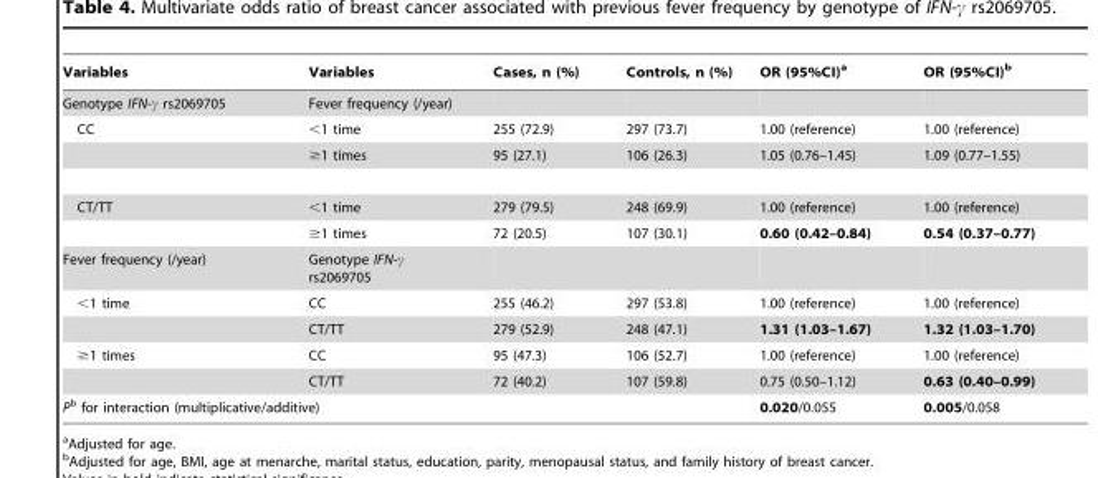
<table><thead><tr><td>Variables</td><td>Variables</td><td>Cases, n (%)</td><td>Controls, n (%)</td><td>OR (95%CI)<sup>a</sup></td><td>OR (95%CI)<sup>b</sup></td></tr></thead><tbody><tr><td>Genotype IFN-γ rs2069705</td><td>Fever frequency (/year)</td><td></td><td></td><td></td><td></td></tr><tr><td rowspan="2">CC</td><td>&lt;1 time</td><td>255 (72.9)</td><td>297 (73.7)</td><td>1.00 (reference)</td><td>1.00 (reference)</td></tr><tr><td>≥1 times</td><td>95 (27.1)</td><td>106 (26.3)</td><td>1.05 (0.76–1.45)</td><td>1.09 (0.77–1.55)</td></tr><tr><td rowspan="2">CT/TT</td><td>&lt;1 time</td><td>279 (79.5)</td><td>248 (69.9)</td><td>1.00 (reference)</td><td>1.00 (reference)</td></tr><tr><td>≥1 times</td><td>72 (20.5)</td><td>107 (30.1)</td><td>0.60 (0.42–0.84)</td><td>0.54 (0.37–0.77)</td></tr><tr><td>Fever frequency (/year)</td><td>Genotype IFN-γ rs2069705</td><td></td><td></td><td></td><td></td></tr><tr><td rowspan="2">&lt;1 time</td><td>CC</td><td>255 (46.2)</td><td>297 (53.8)</td><td>1.00 (reference)</td><td>1.00 (reference)</td></tr><tr><td>CT/TT</td><td>279 (52.9)</td><td>248 (47.1)</td><td>1.31 (1.03–1.67)</td><td>1.32 (1.03–1.70)</td></tr><tr><td rowspan="2">≥1 times</td><td>CC</td><td>95 (47.3)</td><td>106 (52.7)</td><td>1.00 (reference)</td><td>1.00 (reference)</td></tr><tr><td>CT/TT</td><td>72 (40.2)</td><td>107 (59.8)</td><td>0.75 (0.50–1.12)</td><td>0.63 (0.40–0.99)</td></tr><tr><td colspan="2">Pb for interaction (multiplicative/additive)</td><td></td><td></td><td>0.020/0.055</td><td>0.005/0.058</td></tr></tbody></table>